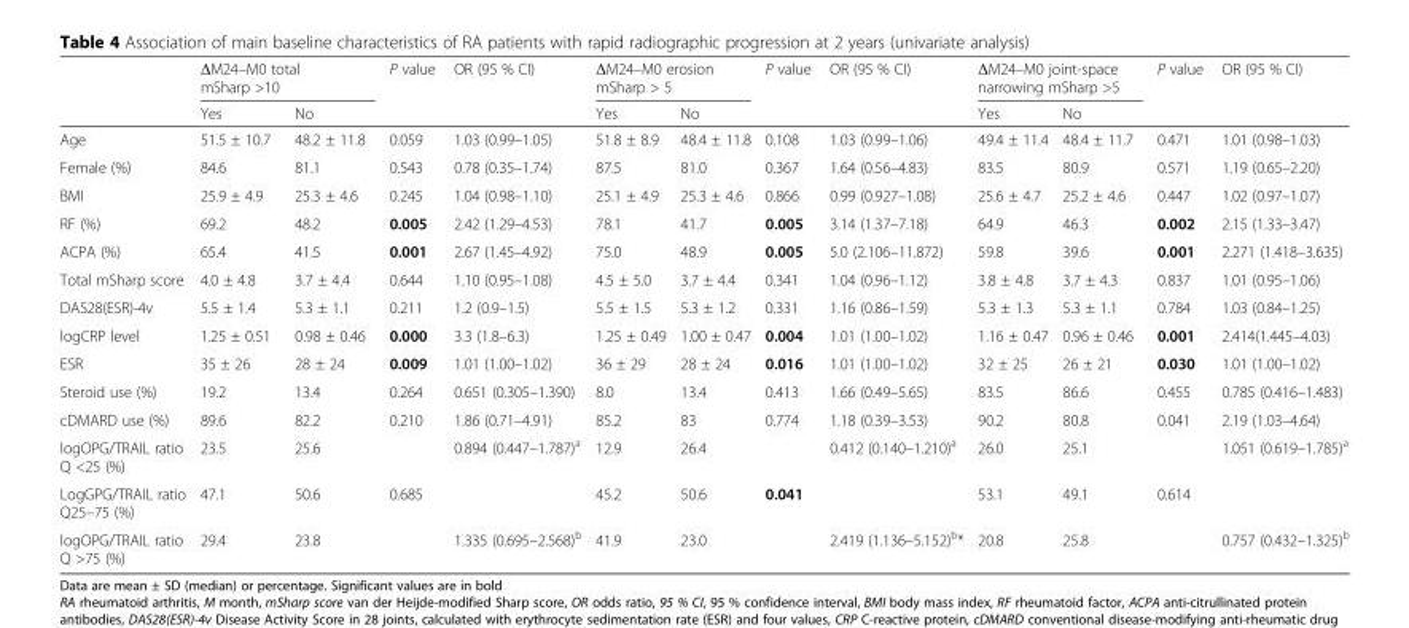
<table><thead><tr><td rowspan="2"></td><td colspan="2">ΔM24–M0 total mSharp &gt;10</td><td rowspan="2">P value</td><td rowspan="2">OR (95 % CI)</td><td colspan="2">ΔM24–M0 erosion mSharp &gt; 5</td><td rowspan="2">P value</td><td rowspan="2">OR (95 % CI)</td><td colspan="2">ΔM24–M0 joint-space narrowing mSharp &gt;5</td><td rowspan="2">P value</td><td rowspan="2">OR (95 % CI)</td></tr><tr><td>Yes</td><td>No</td><td>Yes</td><td>No</td><td>Yes</td><td>No</td></tr></thead><tbody><tr><td>Age</td><td>51.5 ± 10.7</td><td>48.2 ± 11.8</td><td>0.059</td><td>1.03 (0.99–1.05)</td><td>51.8 ± 8.9</td><td>48.4 ± 11.8</td><td>0.108</td><td>1.03 (0.99–1.06)</td><td>49.4 ± 11.4</td><td>48.4 ± 11.7</td><td>0.471</td><td>1.01 (0.98–1.03)</td></tr><tr><td>Female (%)</td><td>84.6</td><td>81.1</td><td>0.543</td><td>0.78 (0.35–1.74)</td><td>87.5</td><td>81.0</td><td>0.367</td><td>1.64 (0.56–4.83)</td><td>83.5</td><td>80.9</td><td>0.571</td><td>1.19 (0.65–2.20)</td></tr><tr><td>BMI</td><td>25.9 ± 4.9</td><td>25.3 ± 4.6</td><td>0.245</td><td>1.04 (0.98–1.10)</td><td>25.1 ± 4.9</td><td>25.3 ± 4.6</td><td>0.866</td><td>0.99 (0.927–1.08)</td><td>25.6 ± 4.7</td><td>25.2 ± 4.6</td><td>0.447</td><td>1.02 (0.97–1.07)</td></tr><tr><td>RF (%)</td><td>69.2</td><td>48.2</td><td>0.005</td><td>2.42 (1.29–4.53)</td><td>78.1</td><td>41.7</td><td>0.005</td><td>3.14 (1.37–7.18)</td><td>64.9</td><td>46.3</td><td>0.002</td><td>2.15 (1.33–3.47)</td></tr><tr><td>ACPA (%)</td><td>65.4</td><td>41.5</td><td>0.001</td><td>2.67 (1.45–4.92)</td><td>75.0</td><td>48.9</td><td>0.005</td><td>5.0 (2.106–11.872)</td><td>59.8</td><td>39.6</td><td>0.001</td><td>2.271 (1.418–3.635)</td></tr><tr><td>Total mSharp score</td><td>4.0 ± 4.8</td><td>3.7 ± 4.4</td><td>0.644</td><td>1.10 (0.95–1.08)</td><td>4.5 ± 5.0</td><td>3.7 ± 4.4</td><td>0.341</td><td>1.04 (0.96–1.12)</td><td>3.8 ± 4.8</td><td>3.7 ± 4.3</td><td>0.837</td><td>1.01 (0.95–1.06)</td></tr><tr><td>DAS28(ESR)-4v</td><td>5.5 ± 1.4</td><td>5.3 ± 1.1</td><td>0.211</td><td>1.2 (0.9–1.5)</td><td>5.5 ± 1.5</td><td>5.3 ± 1.2</td><td>0.331</td><td>1.16 (0.86–1.59)</td><td>5.3 ± 1.3</td><td>5.3 ± 1.1</td><td>0.784</td><td>1.03 (0.84–1.25)</td></tr><tr><td>logCRP level</td><td>1.25 ± 0.51</td><td>0.98 ± 0.46</td><td>0.000</td><td>3.3 (1.8–6.3)</td><td>1.25 ± 0.49</td><td>1.00 ± 0.47</td><td>0.004</td><td>1.01 (1.00–1.02)</td><td>1.16 ± 0.47</td><td>0.96 ± 0.46</td><td>0.001</td><td>2.414(1.445–4.03)</td></tr><tr><td>ESR</td><td>35 ± 26</td><td>28 ± 24</td><td>0.009</td><td>1.01 (1.00–1.02)</td><td>36 ± 29</td><td>28 ± 24</td><td>0.016</td><td>1.01 (1.00–1.02)</td><td>32 ± 25</td><td>26 ± 21</td><td>0.030</td><td>1.01 (1.00–1.02)</td></tr><tr><td>Steroid use (%)</td><td>19.2</td><td>13.4</td><td>0.264</td><td>0.651 (0.305–1.390)</td><td>8.0</td><td>13.4</td><td>0.413</td><td>1.66 (0.49–5.65)</td><td>83.5</td><td>86.6</td><td>0.455</td><td>0.785 (0.416–1.483)</td></tr><tr><td>cDMARD use (%)</td><td>89.6</td><td>82.2</td><td>0.210</td><td>1.86 (0.71–4.91)</td><td>85.2</td><td>83</td><td>0.774</td><td>1.18 (0.39–3.53)</td><td>90.2</td><td>80.8</td><td>0.041</td><td>2.19 (1.03–4.64)</td></tr><tr><td>logOPG/TRAIL ratio Q &lt;25 (%)</td><td>23.5</td><td>25.6</td><td></td><td>0.894 (0.447–1.787)<sup>a</sup></td><td>12.9</td><td>26.4</td><td></td><td>0.412 (0.140–1.210)<sup>a</sup></td><td>26.0</td><td>25.1</td><td></td><td>1.051 (0.619–1.785)<sup>a</sup></td></tr><tr><td>LogGPG/TRAIL ratio Q25–75 (%)</td><td>47.1</td><td>50.6</td><td>0.685</td><td></td><td>45.2</td><td>50.6</td><td>0.041</td><td></td><td>53.1</td><td>49.1</td><td>0.614</td><td></td></tr><tr><td>logOPG/TRAIL ratio Q &gt;75 (%)</td><td>29.4</td><td>23.8</td><td></td><td>1.335 (0.695–2.568)<sup>b</sup></td><td>41.9</td><td>23.0</td><td></td><td>2.419 (1.136–5.152)<sup>b</sup>*</td><td>20.8</td><td>25.8</td><td></td><td>0.757 (0.432–1.325)<sup>b</sup></td></tr></tbody></table>